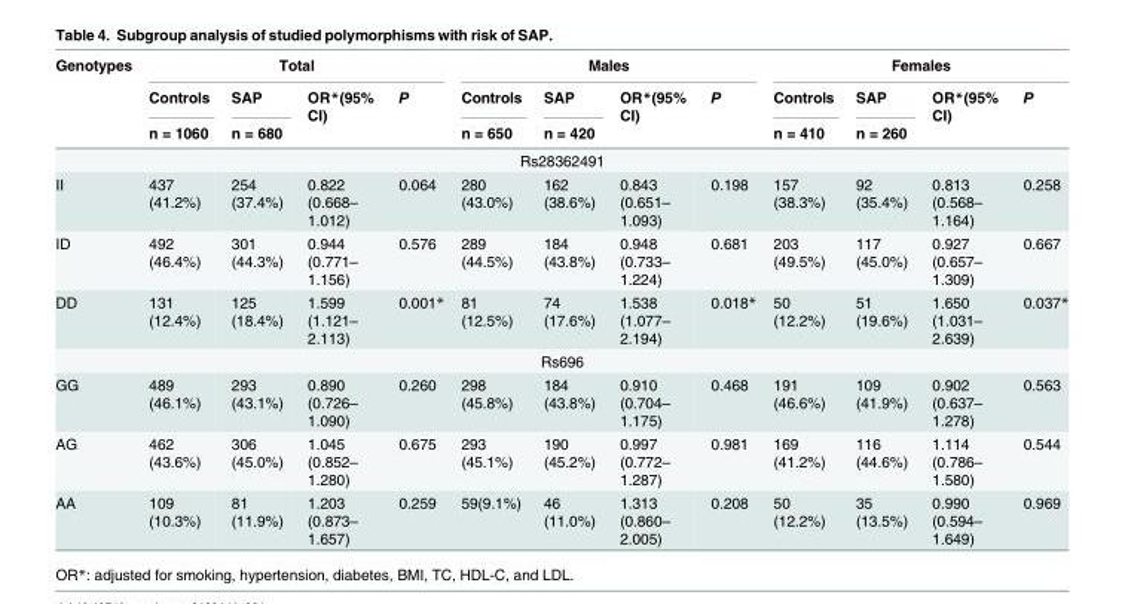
<table><thead><tr><td rowspan="3">Genotypes</td><td colspan="4">Total</td><td colspan="4">Males</td><td colspan="4">Females</td></tr><tr><td rowspan="2">Controls n = 1060</td><td rowspan="2">SAP n = 680</td><td rowspan="2">OR*(95% CI)</td><td rowspan="2">P</td><td rowspan="2">Controls n = 650</td><td rowspan="2">SAP n = 420</td><td rowspan="2">OR*(95% CI)</td><td rowspan="2">P</td><td rowspan="2">Controls n = 410</td><td rowspan="2">SAP n = 260</td><td rowspan="2">OR*(95% CI)</td><td rowspan="2">P</td></tr><tr></tr></thead><tbody><tr><td colspan="13">Rs28362491</td></tr><tr><td>II</td><td>437 (41.2%)</td><td>254 (37.4%)</td><td>0.822 (0.668– 1.012)</td><td>0.064</td><td>280 (43.0%)</td><td>162 (38.6%)</td><td>0.843 (0.651– 1.093)</td><td>0.198</td><td>157 (38.3%)</td><td>92 (35.4%)</td><td>0.813 (0.568– 1.164)</td><td>0.258</td></tr><tr><td>ID</td><td>492 (46.4%)</td><td>301 (44.3%)</td><td>0.944 (0.771– 1.156)</td><td>0.576</td><td>289 (44.5%)</td><td>184 (43.8%)</td><td>0.948 (0.733– 1.224)</td><td>0.681</td><td>203 (49.5%)</td><td>117 (45.0%)</td><td>0.927 (0.657– 1.309)</td><td>0.667</td></tr><tr><td>DD</td><td>131 (12.4%)</td><td>125 (18.4%)</td><td>1.599 (1.121– 2.113)</td><td>0.001*</td><td>81 (12.5%)</td><td>74 (17.6%)</td><td>1.538 (1.077– 2.194)</td><td>0.018*</td><td>50 (12.2%)</td><td>51 (19.6%)</td><td>1.650 (1.031– 2.639)</td><td>0.037*</td></tr><tr><td colspan="13">Rs696</td></tr><tr><td>GG</td><td>489 (46.1%)</td><td>293 (43.1%)</td><td>0.890 (0.726– 1.090)</td><td>0.260</td><td>298 (45.8%)</td><td>184 (43.8%)</td><td>0.910 (0.704– 1.175)</td><td>0.468</td><td>191 (46.6%)</td><td>109 (41.9%)</td><td>0.902 (0.637– 1.278)</td><td>0.563</td></tr><tr><td>AG</td><td>462 (43.6%)</td><td>306 (45.0%)</td><td>1.045 (0.852– 1.280)</td><td>0.675</td><td>293 (45.1%)</td><td>190 (45.2%)</td><td>0.997 (0.772– 1.287)</td><td>0.981</td><td>169 (41.2%)</td><td>116 (44.6%)</td><td>1.114 (0.786– 1.580)</td><td>0.544</td></tr><tr><td>AA</td><td>109 (10.3%)</td><td>81 (11.9%)</td><td>1.203 (0.873– 1.657)</td><td>0.259</td><td>59(9.1%)</td><td>46 (11.0%)</td><td>1.313 (0.860– 2.005)</td><td>0.208</td><td>50 (12.2%)</td><td>35 (13.5%)</td><td>0.990 (0.594– 1.649)</td><td>0.969</td></tr></tbody></table>